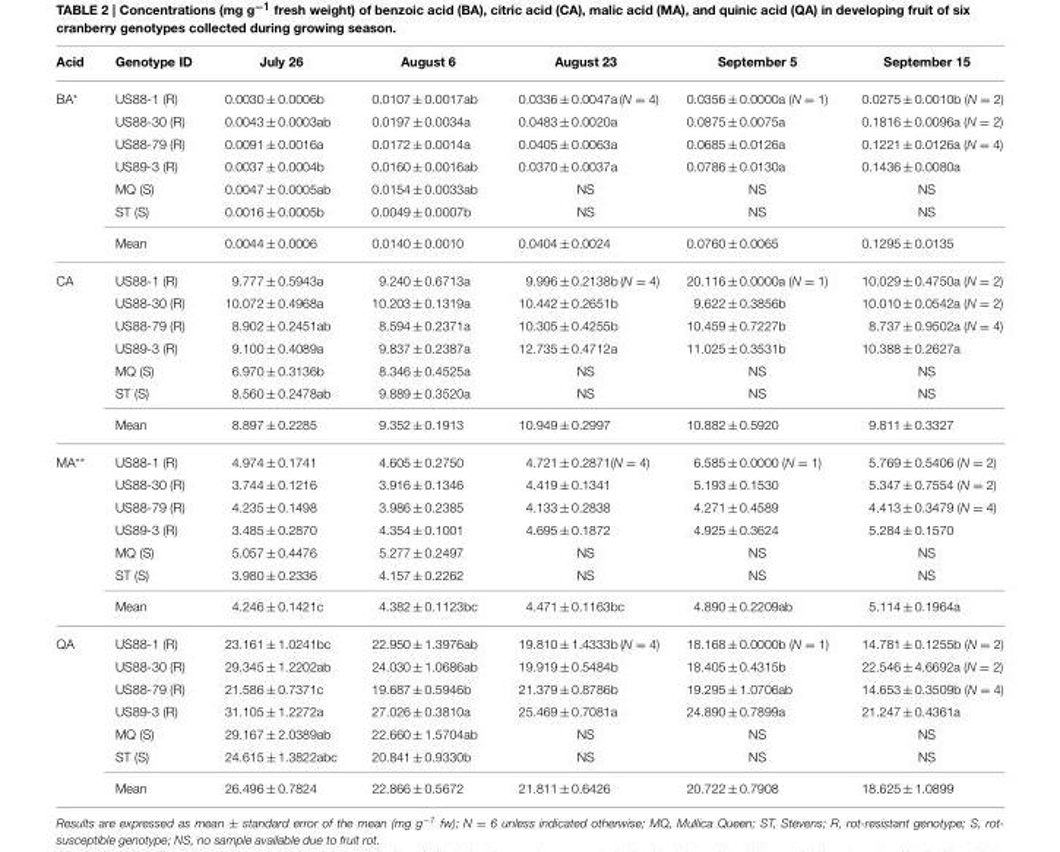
<table><thead><tr><td>Acid</td><td>Genotype ID</td><td>July 26</td><td>August 6</td><td>August 23</td><td>September 5</td><td>September 15</td></tr></thead><tbody><tr><td rowspan="7">BA*</td><td>US88-1 (R)</td><td>0.0030 ± 0.0006b</td><td>0.0107 ± 0.0017ab</td><td>0.0336 ± 0.0047a (N = 4)</td><td>0.0356 ± 0.0000a (N = 1)</td><td>0.0275 ± 0.0010b (N = 2)</td></tr><tr><td>US88-30 (R)</td><td>0.0043 ± 0.0003ab</td><td>0.0197 ± 0.0034a</td><td>0.0483 ± 0.0020a</td><td>0.0875 ± 0.0075a</td><td>0.1816 ± 0.0096a (N = 2)</td></tr><tr><td>US88-79 (R)</td><td>0.0091 ± 0.0016a</td><td>0.0172 ± 0.0014a</td><td>0.0405 ± 0.0063a</td><td>0.0685 ± 0.0126a</td><td>0.1221 ± 0.0126a (N = 4)</td></tr><tr><td>US89-3 (R)</td><td>0.0037 ± 0.0004b</td><td>0.0160 ± 0.0016ab</td><td>0.0370 ± 0.0037a</td><td>0.0786 ± 0.0130a</td><td>0.1436 ± 0.0080a</td></tr><tr><td>MQ (S)</td><td>0.0047 ± 0.0005ab</td><td>0.0154 ± 0.0033ab</td><td>NS</td><td>NS</td><td>NS</td></tr><tr><td>ST (S)</td><td>0.0016 ± 0.0005b</td><td>0.0049 ± 0.0007b</td><td>NS</td><td>NS</td><td>NS</td></tr><tr><td>Mean</td><td>0.0044 ± 0.0006</td><td>0.0140 ± 0.0010</td><td>0.0404 ± 0.0024</td><td>0.0760 ± 0.0065</td><td>0.1295 ± 0.0135</td></tr><tr><td rowspan="7">CA</td><td>US88-1 (R)</td><td>9.777 ± 0.5943a</td><td>9.240 ± 0.6713a</td><td>9.996 ± 0.2138b (N = 4)</td><td>20.116 ± 0.0000a (N = 1)</td><td>10.029 ± 0.4750a (N = 2)</td></tr><tr><td>US88-30 (R)</td><td>10.072 ± 0.4968a</td><td>10.203 ± 0.1319a</td><td>10.442 ± 0.2651b</td><td>9.622 ± 0.3856b</td><td>10.010 ± 0.0542a (N = 2)</td></tr><tr><td>US88-79 (R)</td><td>8.902 ± 0.2451ab</td><td>8.594 ± 0.2371a</td><td>10.305 ± 0.4255b</td><td>10.459 ± 0.7227b</td><td>8.737 ± 0.9502a (N = 4)</td></tr><tr><td>US89-3 (R)</td><td>9.100 ± 0.4089a</td><td>9.837 ± 0.2387a</td><td>12.735 ± 0.4712a</td><td>11.025 ± 0.3531b</td><td>10.388 ± 0.2627a</td></tr><tr><td>MQ (S)</td><td>6.970 ± 0.3136b</td><td>8.346 ± 0.4525a</td><td>NS</td><td>NS</td><td>NS</td></tr><tr><td>ST (S)</td><td>8.560 ± 0.2478ab</td><td>9.889 ± 0.3520a</td><td>NS</td><td>NS</td><td>NS</td></tr><tr><td>Mean</td><td>8.897 ± 0.2285</td><td>9.352 ± 0.1913</td><td>10.949 ± 0.2997</td><td>10.882 ± 0.5920</td><td>9.811 ± 0.3327</td></tr><tr><td rowspan="7">MA**</td><td>US88-1 (R)</td><td>4.974 ± 0.1741</td><td>4.605 ± 0.2750</td><td>4.721 ± 0.2871(N = 4)</td><td>6.585 ± 0.0000 (N = 1)</td><td>5.769 ± 0.5406 (N = 2)</td></tr><tr><td>US88-30 (R)</td><td>3.744 ± 0.1216</td><td>3.916 ± 0.1346</td><td>4.419 ± 0.1341</td><td>5.193 ± 0.1530</td><td>5.347 ± 0.7554 (N = 2)</td></tr><tr><td>US88-79 (R)</td><td>4.235 ± 0.1498</td><td>3.986 ± 0.2385</td><td>4.133 ± 0.2838</td><td>4.271 ± 0.4589</td><td>4.413 ± 0.3479 (N = 4)</td></tr><tr><td>US89-3 (R)</td><td>3.485 ± 0.2870</td><td>4.354 ± 0.1001</td><td>4.695 ± 0.1872</td><td>4.925 ± 0.3624</td><td>5.284 ± 0.1570</td></tr><tr><td>MQ (S)</td><td>5.057 ± 0.4476</td><td>5.277 ± 0.2497</td><td>NS</td><td>NS</td><td>NS</td></tr><tr><td>ST (S)</td><td>3.980 ± 0.2336</td><td>4.157 ± 0.2262</td><td>NS</td><td>NS</td><td>NS</td></tr><tr><td>Mean</td><td>4.246 ± 0.1421c</td><td>4.382 ± 0.1123bc</td><td>4.471 ± 0.1163bc</td><td>4.890 ± 0.2209ab</td><td>5.114 ± 0.1964a</td></tr><tr><td rowspan="7">QA</td><td>US88-1 (R)</td><td>23.161 ± 1.0241bc</td><td>22.950 ± 1.3976ab</td><td>19.810 ± 1.4333b (N = 4)</td><td>18.168 ± 0.0000b (N = 1)</td><td>14.781 ± 0.1255b (N = 2)</td></tr><tr><td>US88-30 (R)</td><td>29.345 ± 1.2202ab</td><td>24.030 ± 1.0686ab</td><td>19.919 ± 0.5484b</td><td>18.405 ± 0.4315b</td><td>22.546 ± 4.6692a (N = 2)</td></tr><tr><td>US88-79 (R)</td><td>21.586 ± 0.7371c</td><td>19.687 ± 0.5946b</td><td>21.379 ± 0.8786b</td><td>19.295 ± 1.0706ab</td><td>14.653 ± 0.3509b (N = 4)</td></tr><tr><td>US89-3 (R)</td><td>31.105 ± 1.2272a</td><td>27.026 ± 0.3810a</td><td>25.469 ± 0.7081a</td><td>24.890 ± 0.7899a</td><td>21.247 ± 0.4361a</td></tr><tr><td>MQ (S)</td><td>29.167 ± 2.0389ab</td><td>22.660 ± 1.5704ab</td><td>NS</td><td>NS</td><td>NS</td></tr><tr><td>ST (S)</td><td>24.615 ± 1.3822abc</td><td>20.841 ± 0.9330b</td><td>NS</td><td>NS</td><td>NS</td></tr><tr><td>Mean</td><td>26.496 ± 0.7824</td><td>22.866 ± 0.5672</td><td>21.811 ± 0.6426</td><td>20.722 ± 0.7908</td><td>18.625 ± 1.0899</td></tr></tbody></table>